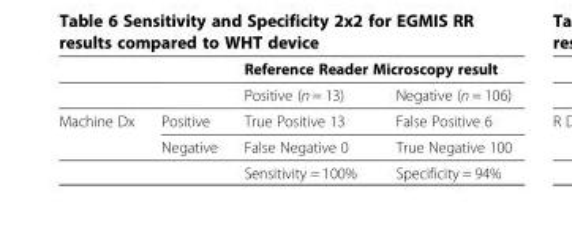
<table><thead><tr><td rowspan="2"></td><td rowspan="2"></td><td colspan="2">Reference Reader Microscopy result</td></tr><tr><td>Positive (n = 13)</td><td>Negative (n = 106)</td></tr></thead><tbody><tr><td rowspan="3">Machine Dx</td><td>Positive</td><td>True Positive 13</td><td>False Positive 6</td></tr><tr><td>Negative</td><td>False Negative 0</td><td>True Negative 100</td></tr><tr><td></td><td>Sensitivity = 100%</td><td>Specificity = 94%</td></tr></tbody></table>